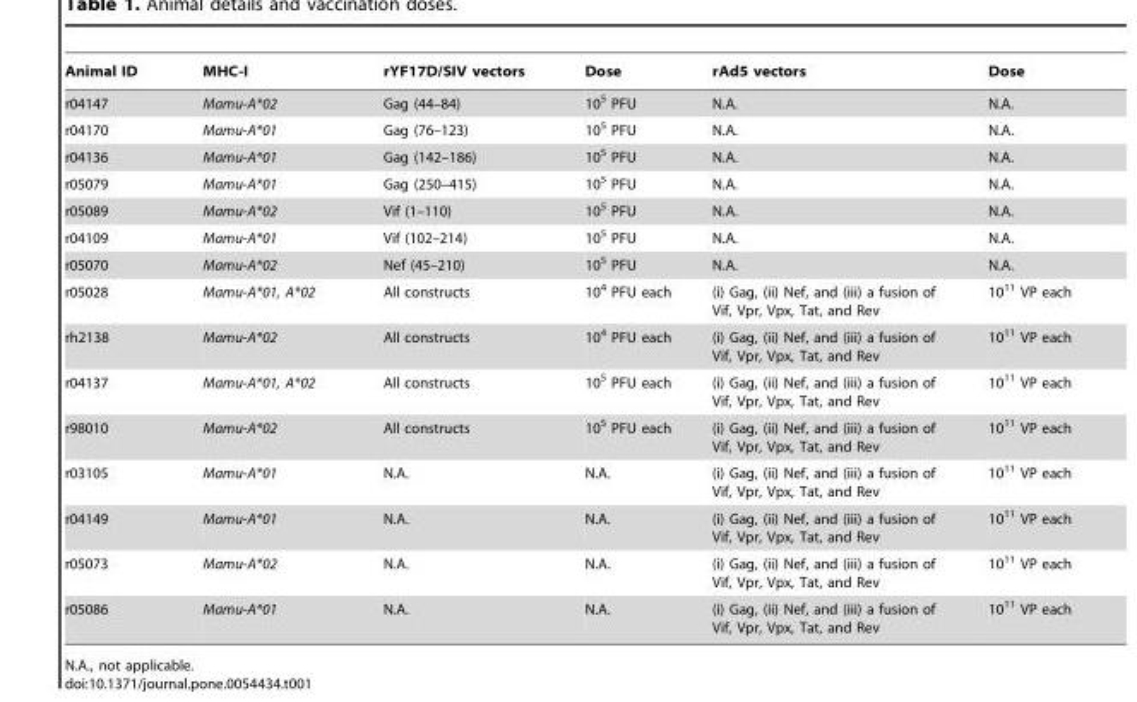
<table><thead><tr><td>Animal ID</td><td>MHC-I</td><td>rYF17D/SIV vectors</td><td>Dose</td><td>rAd5 vectors</td><td>Dose</td></tr></thead><tbody><tr><td>r04147</td><td>Mamu-A*02</td><td>Gag (44–84)</td><td>10<sup>5</sup> PFU</td><td>N.A.</td><td>N.A.</td></tr><tr><td>r04170</td><td>Mamu-A*01</td><td>Gag (76–123)</td><td>10<sup>5</sup> PFU</td><td>N.A.</td><td>N.A.</td></tr><tr><td>r04136</td><td>Mamu-A*01</td><td>Gag (142–186)</td><td>10<sup>5</sup> PFU</td><td>N.A.</td><td>N.A.</td></tr><tr><td>r05079</td><td>Mamu-A*01</td><td>Gag (250–415)</td><td>10<sup>5</sup> PFU</td><td>N.A.</td><td>N.A.</td></tr><tr><td>r05089</td><td>Mamu-A*02</td><td>Vif (1–110)</td><td>10<sup>5</sup> PFU</td><td>N.A.</td><td>N.A.</td></tr><tr><td>r04109</td><td>Mamu-A*01</td><td>Vif (102–214)</td><td>10<sup>5</sup> PFU</td><td>N.A.</td><td>N.A.</td></tr><tr><td>r05070</td><td>Mamu-A*02</td><td>Nef (45–210)</td><td>10<sup>5</sup> PFU</td><td>N.A.</td><td>N.A.</td></tr><tr><td>r05028</td><td>Mamu-A*01, A*02</td><td>All constructs</td><td>10<sup>4</sup> PFU each</td><td>(i) Gag, (ii) Nef, and (iii) a fusion of Vif, Vpr, Vpx, Tat, and Rev</td><td>10<sup>11</sup> VP each</td></tr><tr><td>rh2138</td><td>Mamu-A*02</td><td>All constructs</td><td>10<sup>4</sup> PFU each</td><td>(i) Gag, (ii) Nef, and (iii) a fusion of Vif, Vpr, Vpx, Tat, and Rev</td><td>10<sup>11</sup> VP each</td></tr><tr><td>r04137</td><td>Mamu-A*01, A*02</td><td>All constructs</td><td>10<sup>5</sup> PFU each</td><td>(i) Gag, (ii) Nef, and (iii) a fusion of Vif, Vpr, Vpx, Tat, and Rev</td><td>10<sup>11</sup> VP each</td></tr><tr><td>r98010</td><td>Mamu-A*02</td><td>All constructs</td><td>10<sup>5</sup> PFU each</td><td>(i) Gag, (ii) Nef, and (iii) a fusion of Vif, Vpr, Vpx, Tat, and Rev</td><td>10<sup>11</sup> VP each</td></tr><tr><td>r03105</td><td>Mamu-A*01</td><td>N.A.</td><td>N.A.</td><td>(i) Gag, (ii) Nef, and (iii) a fusion of Vif, Vpr, Vpx, Tat, and Rev</td><td>10<sup>11</sup> VP each</td></tr><tr><td>r04149</td><td>Mamu-A*01</td><td>N.A.</td><td>N.A.</td><td>(i) Gag, (ii) Nef, and (iii) a fusion of Vif, Vpr, Vpx, Tat, and Rev</td><td>10<sup>11</sup> VP each</td></tr><tr><td>r05073</td><td>Mamu-A*02</td><td>N.A.</td><td>N.A.</td><td>(i) Gag, (ii) Nef, and (iii) a fusion of Vif, Vpr, Vpx, Tat, and Rev</td><td>10<sup>11</sup> VP each</td></tr><tr><td>r05086</td><td>Mamu-A*01</td><td>N.A.</td><td>N.A.</td><td>(i) Gag, (ii) Nef, and (iii) a fusion of Vif, Vpr, Vpx, Tat, and Rev</td><td>10<sup>11</sup> VP each</td></tr></tbody></table>